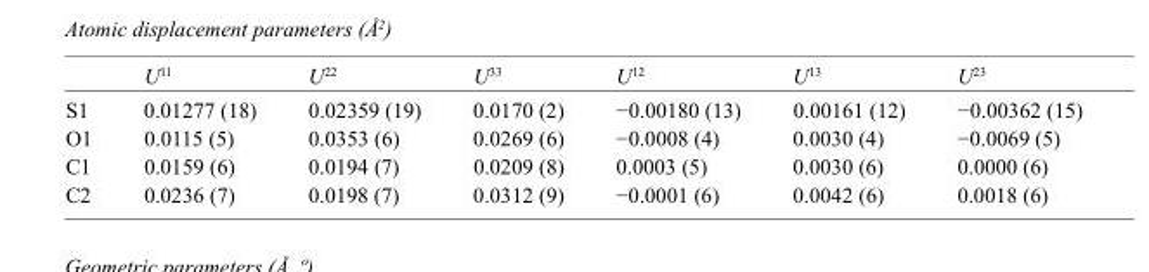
<table><thead><tr><td></td><td>U<sup>11</sup></td><td>U<sup>22</sup></td><td>U<sup>33</sup></td><td>U<sup>12</sup></td><td>U<sup>13</sup></td><td>U<sup>23</sup></td></tr></thead><tbody><tr><td>S1</td><td>0.01277 (18)</td><td>0.02359 (19)</td><td>0.0170 (2)</td><td>−0.00180 (13)</td><td>0.00161 (12)</td><td>−0.00362 (15)</td></tr><tr><td>O1</td><td>0.0115 (5)</td><td>0.0353 (6)</td><td>0.0269 (6)</td><td>−0.0008 (4)</td><td>0.0030 (4)</td><td>−0.0069 (5)</td></tr><tr><td>C1</td><td>0.0159 (6)</td><td>0.0194 (7)</td><td>0.0209 (8)</td><td>0.0003 (5)</td><td>0.0030 (6)</td><td>0.0000 (6)</td></tr><tr><td>C2</td><td>0.0236 (7)</td><td>0.0198 (7)</td><td>0.0312 (9)</td><td>−0.0001 (6)</td><td>0.0042 (6)</td><td>0.0018 (6)</td></tr></tbody></table>